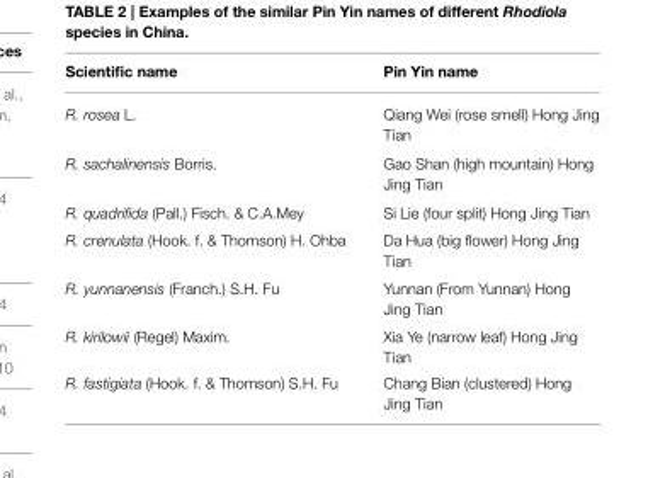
<table><thead><tr><td>Scientific name</td><td>Pin Yin name</td></tr></thead><tbody><tr><td>R. rosea L.</td><td>Qiang Wei (rose smell) Hong Jing Tian</td></tr><tr><td>R. sachalinensis Borris.</td><td>Gao Shan (high mountain) Hong Jing Tian</td></tr><tr><td>R. quadrifida (Pall.) Fisch. &amp; C.A.Mey</td><td>Si Lie (four split) Hong Jing Tian</td></tr><tr><td>R. crenulata (Hook. f. &amp; Thomson) H. Ohba</td><td>Da Hua (big flower) Hong Jing Tian</td></tr><tr><td>R. yunnanensis (Franch.) S.H. Fu</td><td>Yunnan (From Yunnan) Hong Jing Tian</td></tr><tr><td>R. kirilowii (Regel) Maxim.</td><td>Xia Ye (narrow leaf) Hong Jing Tian</td></tr><tr><td>R. fastigiata (Hook. f. &amp; Thomson) S.H. Fu</td><td>Chang Bian (clustered) Hong Jing Tian</td></tr></tbody></table>